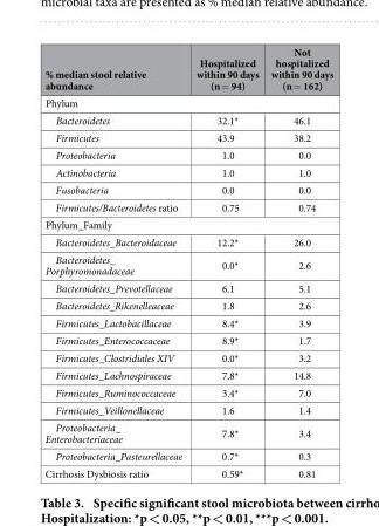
<table><thead><tr><td>% median stool relative abundance</td><td>Hospitalized within 90 days (n = 94)</td><td>Not hospitalized within 90 days (n = 162)</td></tr></thead><tbody><tr><td colspan="3">Phylum</td></tr><tr><td>Bacteroidetes</td><td>32.1*</td><td>46.1</td></tr><tr><td>Firmicutes</td><td>43.9</td><td>38.2</td></tr><tr><td>Proteobacteria</td><td>1.0</td><td>0.0</td></tr><tr><td>Actinobacteria</td><td>1.0</td><td>1.0</td></tr><tr><td>Fusobacteria</td><td>0.0</td><td>0.0</td></tr><tr><td>Firmicutes/Bacteroidetes ratio</td><td>0.75</td><td>0.74</td></tr><tr><td colspan="3">Phylum_Family</td></tr><tr><td>Bacteroidetes_Bacteroidaceae</td><td>12.2*</td><td>26.0</td></tr><tr><td>Bacteroidetes_ Porphyromonadaceae</td><td>0.0*</td><td>2.6</td></tr><tr><td>Bacteroidetes_Prevotellaceae</td><td>6.1</td><td>5.1</td></tr><tr><td>Bacteroidetes_Rikenelleaceae</td><td>1.8</td><td>2.6</td></tr><tr><td>Firmicutes_Lactobacillaceae</td><td>8.4*</td><td>3.9</td></tr><tr><td>Firmicutes_Enterococcaceae</td><td>8.9*</td><td>1.7</td></tr><tr><td>Firmicutes_Clostridiales XIV</td><td>0.0*</td><td>3.2</td></tr><tr><td>Firmicutes_Lachnospiraceae</td><td>7.8*</td><td>14.8</td></tr><tr><td>Firmicutes_Ruminococcaceae</td><td>3.4*</td><td>7.0</td></tr><tr><td>Firmicutes_Veillonellaceae</td><td>1.6</td><td>1.4</td></tr><tr><td>Proteobacteria_ Enterobacteriaceae</td><td>7.8*</td><td>3.4</td></tr><tr><td>Proteobacteria_Pasteurellaceae</td><td>0.7*</td><td>0.3</td></tr><tr><td>Cirrhosis Dysbiosis ratio</td><td>0.59*</td><td>0.81</td></tr></tbody></table>